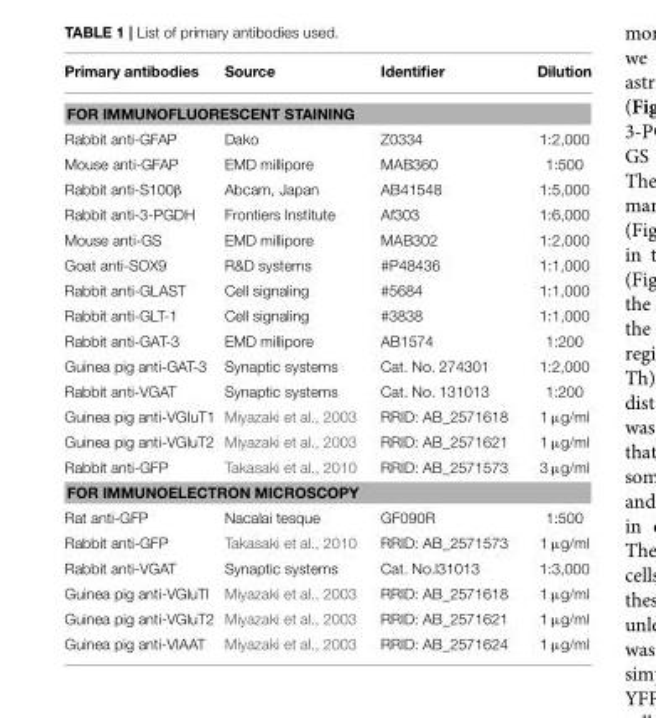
<table><thead><tr><td>Primary antibodies</td><td>Source</td><td>Identifier</td><td>Dilution</td></tr></thead><tbody><tr><td colspan="4">FOR IMMUNOFLUORESCENT STAINING</td></tr><tr><td>Rabbit anti-GFAP</td><td>Dako</td><td>Z0334</td><td>1:2,000</td></tr><tr><td>Mouse anti-GFAP</td><td>EMD millipore</td><td>MAB360</td><td>1:500</td></tr><tr><td>Rabbit anti-S100β</td><td>Abcam, Japan</td><td>AB41548</td><td>1:5,000</td></tr><tr><td>Rabbit anti-3-PGDH</td><td>Frontiers Institute</td><td>Af303</td><td>1:6,000</td></tr><tr><td>Mouse anti-GS</td><td>EMD millipore</td><td>MAB302</td><td>1:2,000</td></tr><tr><td>Goat anti-SOX9</td><td>R&amp;D systems</td><td>#P48436</td><td>1:1,000</td></tr><tr><td>Rabbit anti-GLAST</td><td>Cell signaling</td><td>#5684</td><td>1:1,000</td></tr><tr><td>Rabbit anti-GLT-1</td><td>Cell signaling</td><td>#3838</td><td>1:1,000</td></tr><tr><td>Rabbit anti-GAT-3</td><td>EMD millipore</td><td>AB1574</td><td>1:200</td></tr><tr><td>Guinea pig anti-GAT-3</td><td>Synaptic systems</td><td>Cat. No. 274301</td><td>1:2,000</td></tr><tr><td>Rabbit anti-VGAT</td><td>Synaptic systems</td><td>Cat. No. 131013</td><td>1:200</td></tr><tr><td>Guinea pig anti-VGIuT1</td><td>Miyazaki et al., 2003</td><td>RRID: AB_2571618</td><td>1 µg/ml</td></tr><tr><td>Guinea pig anti-VGluT2</td><td>Miyazaki et al., 2003</td><td>RRID: AB_2571621</td><td>1 µg/ml</td></tr><tr><td>Rabbit anti-GFP</td><td>Takasaki et al., 2010</td><td>RRID: AB_2571573</td><td>3 µg/ml</td></tr><tr><td colspan="4">FOR IMMUNOELECTRON MICROSCOPY</td></tr><tr><td>Rat anti-GFP</td><td>Nacalai tesque</td><td>GF090R</td><td>1:500</td></tr><tr><td>Rabbit anti-GFP</td><td>Takasaki et al., 2010</td><td>RRID: AB_2571573</td><td>1 µg/ml</td></tr><tr><td>Rabbit anti-VGAT</td><td>Synaptic systems</td><td>Cat. No.l31013</td><td>1:3,000</td></tr><tr><td>Guinea pig anti-VGluTl</td><td>Miyazaki et al., 2003</td><td>RRID: AB_2571618</td><td>1 µg/ml</td></tr><tr><td>Guinea pig anti-VGluT2</td><td>Miyazaki et al., 2003</td><td>RRID: AB_2571621</td><td>1 µg/ml</td></tr><tr><td>Guinea pig anti-VIAAT</td><td>Miyazaki et al., 2003</td><td>RRID: AB_2571624</td><td>1 µg/ml</td></tr></tbody></table>